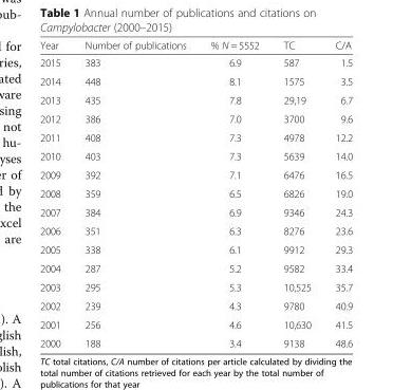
<table><thead><tr><td>Year</td><td>Number of publications</td><td>% N = 5552</td><td>TC</td><td>C/A</td></tr></thead><tbody><tr><td>2015</td><td>383</td><td>6.9</td><td>587</td><td>1.5</td></tr><tr><td>2014</td><td>448</td><td>8.1</td><td>1575</td><td>3.5</td></tr><tr><td>2013</td><td>435</td><td>7.8</td><td>29,19</td><td>6.7</td></tr><tr><td>2012</td><td>386</td><td>7.0</td><td>3700</td><td>9.6</td></tr><tr><td>2011</td><td>408</td><td>7.3</td><td>4978</td><td>12.2</td></tr><tr><td>2010</td><td>403</td><td>7.3</td><td>5639</td><td>14.0</td></tr><tr><td>2009</td><td>392</td><td>7.1</td><td>6476</td><td>16.5</td></tr><tr><td>2008</td><td>359</td><td>6.5</td><td>6826</td><td>19.0</td></tr><tr><td>2007</td><td>384</td><td>6.9</td><td>9346</td><td>24.3</td></tr><tr><td>2006</td><td>351</td><td>6.3</td><td>8276</td><td>23.6</td></tr><tr><td>2005</td><td>338</td><td>6.1</td><td>9912</td><td>29.3</td></tr><tr><td>2004</td><td>287</td><td>5.2</td><td>9582</td><td>33.4</td></tr><tr><td>2003</td><td>295</td><td>5.3</td><td>10,525</td><td>35.7</td></tr><tr><td>2002</td><td>239</td><td>4.3</td><td>9780</td><td>40.9</td></tr><tr><td>2001</td><td>256</td><td>4.6</td><td>10,630</td><td>41.5</td></tr><tr><td>2000</td><td>188</td><td>3.4</td><td>9138</td><td>48.6</td></tr></tbody></table>